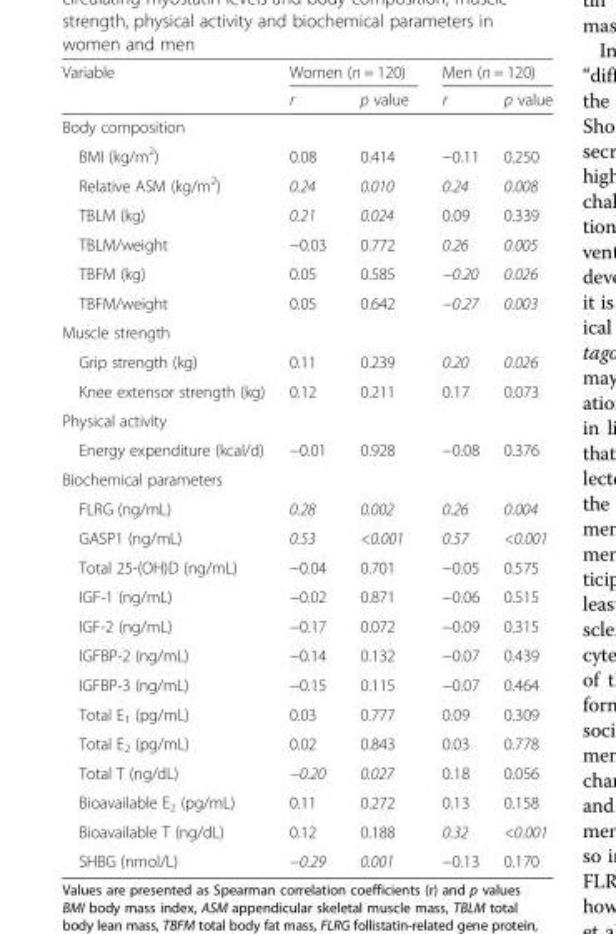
<table><thead><tr><td rowspan="2">Variable</td><td colspan="2">Women (n = 120)</td><td colspan="2">Men (n = 120)</td></tr><tr><td>r</td><td>p value</td><td>r</td><td>p value</td></tr></thead><tbody><tr><td colspan="5">Body composition</td></tr><tr><td>BMI (kg/m<sup>2</sup>)</td><td>0.08</td><td>0.414</td><td>−0.11</td><td>0.250</td></tr><tr><td>Relative ASM (kg/m<sup>2</sup>)</td><td>0.24</td><td>0.010</td><td>0.24</td><td>0.008</td></tr><tr><td>TBLM (kg)</td><td>0.21</td><td>0.024</td><td>0.09</td><td>0.339</td></tr><tr><td>TBLM/weight</td><td>−0.03</td><td>0.772</td><td>0.26</td><td>0.005</td></tr><tr><td>TBFM (kg)</td><td>0.05</td><td>0.585</td><td>−0.20</td><td>0.026</td></tr><tr><td>TBFM/weight</td><td>0.05</td><td>0.642</td><td>−0.27</td><td>0.003</td></tr><tr><td colspan="5">Muscle strength</td></tr><tr><td>Grip strength (kg)</td><td>0.11</td><td>0.239</td><td>0.20</td><td>0.026</td></tr><tr><td>Knee extensor strength (kg)</td><td>0.12</td><td>0.211</td><td>0.17</td><td>0.073</td></tr><tr><td colspan="5">Physical activity</td></tr><tr><td>Energy expenditure (kcal/d)</td><td>−0.01</td><td>0.928</td><td>−0.08</td><td>0.376</td></tr><tr><td colspan="5">Biochemical parameters</td></tr><tr><td>FLRG (ng/mL)</td><td>0.28</td><td>0.002</td><td>0.26</td><td>0.004</td></tr><tr><td>GASP1 (ng/mL)</td><td>0.53</td><td>&lt;0.001</td><td>0.57</td><td>&lt;0.001</td></tr><tr><td>Total 25-(OH)D (ng/mL)</td><td>−0.04</td><td>0.701</td><td>−0.05</td><td>0.575</td></tr><tr><td>IGF-1 (ng/mL)</td><td>−0.02</td><td>0.871</td><td>−0.06</td><td>0.515</td></tr><tr><td>IGF-2 (ng/mL)</td><td>−0.17</td><td>0.072</td><td>−0.09</td><td>0.315</td></tr><tr><td>IGFBP-2 (ng/mL)</td><td>−0.14</td><td>0.132</td><td>−0.07</td><td>0.439</td></tr><tr><td>IGFBP-3 (ng/mL)</td><td>−0.15</td><td>0.115</td><td>−0.07</td><td>0.464</td></tr><tr><td>Total E<sub>1</sub> (pg/mL)</td><td>0.03</td><td>0.777</td><td>0.09</td><td>0.309</td></tr><tr><td>Total E<sub>2</sub> (pg/mL)</td><td>0.02</td><td>0.843</td><td>0.03</td><td>0.778</td></tr><tr><td>Total T (ng/dL)</td><td>−0.20</td><td>0.027</td><td>0.18</td><td>0.056</td></tr><tr><td>Bioavailable E<sub>2</sub> (pg/mL)</td><td>0.11</td><td>0.272</td><td>0.13</td><td>0.158</td></tr><tr><td>Bioavailable T (ng/dL)</td><td>0.12</td><td>0.188</td><td>0.32</td><td>&lt;0.001</td></tr><tr><td>SHBG (nmol/L)</td><td>−0.29</td><td>0.001</td><td>−0.13</td><td>0.170</td></tr></tbody></table>